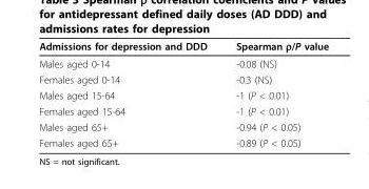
<table><thead><tr><td>Admissions for depression and DDD</td><td>Spearman ρ/P value</td></tr></thead><tbody><tr><td>Males aged 0-14</td><td>-0.08 (NS)</td></tr><tr><td>Females aged 0-14</td><td>-0.3 (NS)</td></tr><tr><td>Males aged 15-64</td><td>-1 (P &lt; 0.01)</td></tr><tr><td>Females aged 15-64</td><td>-1 (P &lt; 0.01)</td></tr><tr><td>Males aged 65+</td><td>-0.94 (P &lt; 0.05)</td></tr><tr><td>Females aged 65+</td><td>-0.89 (P &lt; 0.05)</td></tr></tbody></table>